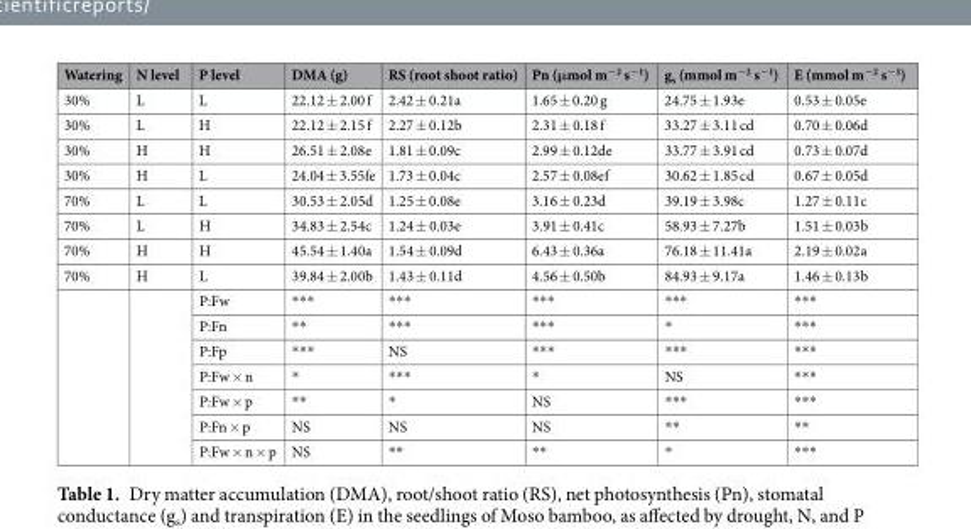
<table><thead><tr><td>Watering</td><td>N level</td><td>P level</td><td>DMA (g)</td><td>RS (root shoot ratio)</td><td>Pn (μmol m<sup>−2</sup> s<sup>−1</sup>)</td><td>g<sub>s</sub> (mmol m<sup>−2</sup> s<sup>−1</sup>)</td><td>E (mmol m<sup>−2</sup> s<sup>−1</sup>)</td></tr></thead><tbody><tr><td>30%</td><td>L</td><td>L</td><td>22.12 ± 2.00 f</td><td>2.42 ± 0.21a</td><td>1.65 ± 0.20 g</td><td>24.75 ± 1.93e</td><td>0.53 ± 0.05e</td></tr><tr><td>30%</td><td>L</td><td>H</td><td>22.12 ± 2.15 f</td><td>2.27 ± 0.12b</td><td>2.31 ± 0.18 f</td><td>33.27 ± 3.11 cd</td><td>0.70 ± 0.06d</td></tr><tr><td>30%</td><td>H</td><td>H</td><td>26.51 ± 2.08e</td><td>1.81 ± 0.09c</td><td>2.99 ± 0.12de</td><td>33.77 ± 3.91 cd</td><td>0.73 ± 0.07d</td></tr><tr><td>30%</td><td>H</td><td>L</td><td>24.04 ± 3.55fe</td><td>1.73 ± 0.04c</td><td>2.57 ± 0.08ef</td><td>30.62 ± 1.85 cd</td><td>0.67 ± 0.05d</td></tr><tr><td>70%</td><td>L</td><td>L</td><td>30.53 ± 2.05d</td><td>1.25 ± 0.08e</td><td>3.16 ± 0.23d</td><td>39.19 ± 3.98c</td><td>1.27 ± 0.11c</td></tr><tr><td>70%</td><td>L</td><td>H</td><td>34.83 ± 2.54c</td><td>1.24 ± 0.03e</td><td>3.91 ± 0.41c</td><td>58.93 ± 7.27b</td><td>1.51 ± 0.03b</td></tr><tr><td>70%</td><td>H</td><td>H</td><td>45.54 ± 1.40a</td><td>1.54 ± 0.09d</td><td>6.43 ± 0.36a</td><td>76.18 ± 11.41a</td><td>2.19 ± 0.02a</td></tr><tr><td rowspan="8">70%</td><td>H</td><td>L</td><td>39.84 ± 2.00b</td><td>1.43 ± 0.11d</td><td>4.56 ± 0.50b</td><td>84.93 ± 9.17a</td><td>1.46 ± 0.13b</td></tr><tr><td rowspan="7"></td><td>P:Fw</td><td>***</td><td>***</td><td>***</td><td>***</td><td>***</td></tr><tr><td>P:Fn</td><td>**</td><td>***</td><td>***</td><td>*</td><td>***</td></tr><tr><td>P:Fp</td><td>***</td><td>NS</td><td>***</td><td>***</td><td>***</td></tr><tr><td>P:Fw × n</td><td>*</td><td>***</td><td>*</td><td>NS</td><td>***</td></tr><tr><td>P:Fw × p</td><td>**</td><td>*</td><td>NS</td><td>***</td><td>***</td></tr><tr><td>P:Fn × p</td><td>NS</td><td>NS</td><td>NS</td><td>**</td><td>**</td></tr><tr><td>P:Fw × n × p</td><td>NS</td><td>**</td><td>**</td><td>*</td><td>***</td></tr></tbody></table>